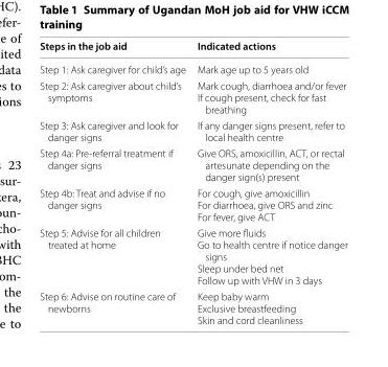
<table><thead><tr><td>Steps in the job aid</td><td>Indicated actions</td></tr></thead><tbody><tr><td>Step 1: Ask caregiver for child’s age</td><td>Mark age up to 5 years old</td></tr><tr><td>Step 2: Ask caregiver about child’s symptoms</td><td>Mark cough, diarrhoea and/or fever If cough present, check for fast breathing</td></tr><tr><td>Step 3: Ask caregiver and look for danger signs</td><td>If any danger signs present, refer to local health centre</td></tr><tr><td>Step 4a: Pre-referral treatment if danger signs</td><td>Give ORS, amoxicillin, ACT, or rectal artesunate depending on the danger sign(s) present</td></tr><tr><td>Step 4b: Treat and advise if no danger signs</td><td>For cough, give amoxicillin For diarrhoea, give ORS and zinc For fever, give ACT</td></tr><tr><td>Step 5: Advise for all children treated at home</td><td>Give more fluids Go to health centre if notice danger signs Sleep under bed net Follow up with VHW in 3 days</td></tr><tr><td>Step 6: Advise on routine care of newborns</td><td>Keep baby warm Exclusive breastfeeding Skin and cord cleanliness</td></tr></tbody></table>